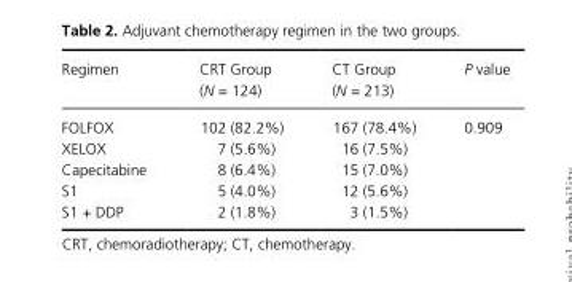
<table><thead><tr><td>Regimen</td><td>CRT Group (N = 124)</td><td>CT Group (N = 213)</td><td>P value</td></tr></thead><tbody><tr><td>FOLFOX</td><td>102 (82.2%)</td><td>167 (78.4%)</td><td>0.909</td></tr><tr><td>XELOX</td><td>7 (5.6%)</td><td>16 (7.5%)</td><td></td></tr><tr><td>Capecitabine</td><td>8 (6.4%)</td><td>15 (7.0%)</td><td></td></tr><tr><td>S1</td><td>5 (4.0%)</td><td>12 (5.6%)</td><td></td></tr><tr><td>S1 + DDP</td><td>2 (1.8%)</td><td>3 (1.5%)</td><td></td></tr></tbody></table>